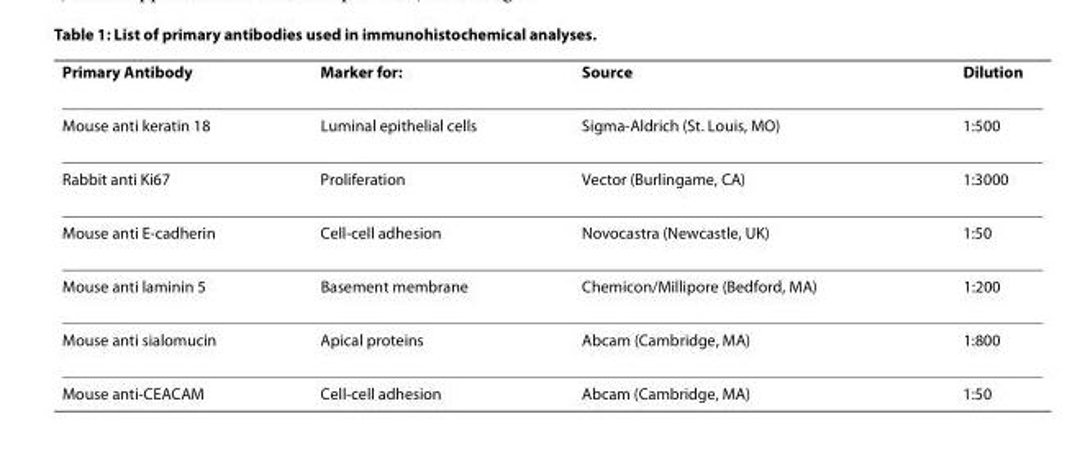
<table><thead><tr><td>Primary Antibody</td><td>Marker for:</td><td>Source</td><td>Dilution</td></tr></thead><tbody><tr><td>Mouse anti keratin 18</td><td>Luminal epithelial cells</td><td>Sigma-Aldrich (St. Louis, MO)</td><td>1:500</td></tr><tr><td>Rabbit anti Ki67</td><td>Proliferation</td><td>Vector (Burlingame, CA)</td><td>1:3000</td></tr><tr><td>Mouse anti E-cadherin</td><td>Cell-cell adhesion</td><td>Novocastra (Newcastle, UK)</td><td>1:50</td></tr><tr><td>Mouse anti laminin 5</td><td>Basement membrane</td><td>Chemicon/Millipore (Bedford, MA)</td><td>1:200</td></tr><tr><td>Mouse anti sialomucin</td><td>Apical proteins</td><td>Abcam (Cambridge, MA)</td><td>1:800</td></tr><tr><td>Mouse anti-CEACAM</td><td>Cell-cell adhesion</td><td>Abcam (Cambridge, MA)</td><td>1:50</td></tr></tbody></table>